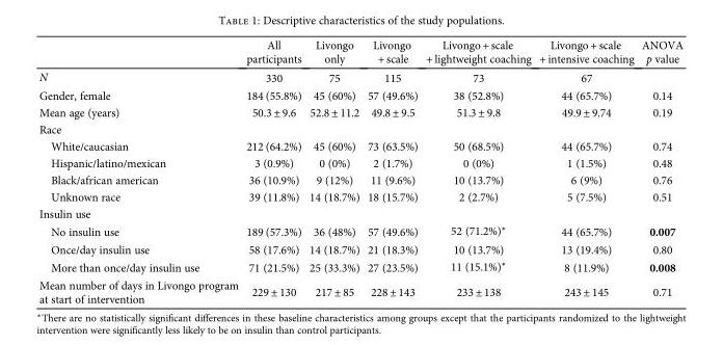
<table><thead><tr><td></td><td>All participants</td><td>Livongo only</td><td>Livongo + scale</td><td>Livongo + scale + lightweight coaching</td><td>Livongo + scale + intensive coaching</td><td>ANOVA p value</td></tr></thead><tbody><tr><td>N</td><td>330</td><td>75</td><td>115</td><td>73</td><td>67</td><td></td></tr><tr><td>Gender, female</td><td>184 (55.8%)</td><td>45 (60%)</td><td>57 (49.6%)</td><td>38 (52.8%)</td><td>44 (65.7%)</td><td>0.14</td></tr><tr><td>Mean age (years)</td><td>50.3 ± 9.6</td><td>52.8 ± 11.2</td><td>49.8 ± 9.5</td><td>51.3 ± 9.8</td><td>49.9 ± 9.74</td><td>0.19</td></tr><tr><td colspan="7">Race</td></tr><tr><td>White/caucasian</td><td>212 (64.2%)</td><td>45 (60%)</td><td>73 (63.5%)</td><td>50 (68.5%)</td><td>44 (65.7%)</td><td>0.74</td></tr><tr><td>Hispanic/latino/mexican</td><td>3 (0.9%)</td><td>0 (0%)</td><td>2 (1.7%)</td><td>0 (0%)</td><td>1 (1.5%)</td><td>0.48</td></tr><tr><td>Black/african american</td><td>36 (10.9%)</td><td>9 (12%)</td><td>11 (9.6%)</td><td>10 (13.7%)</td><td>6 (9%)</td><td>0.76</td></tr><tr><td>Unknown race</td><td>39 (11.8%)</td><td>14 (18.7%)</td><td>18 (15.7%)</td><td>2 (2.7%)</td><td>5 (7.5%)</td><td>0.51</td></tr><tr><td colspan="7">Insulin use</td></tr><tr><td>No insulin use</td><td>189 (57.3%)</td><td>36 (48%)</td><td>57 (49.6%)</td><td>52 (71.2%)∗</td><td>44 (65.7%)</td><td>0.007</td></tr><tr><td>Once/day insulin use</td><td>58 (17.6%)</td><td>14 (18.7%)</td><td>21 (18.3%)</td><td>10 (13.7%)</td><td>13 (19.4%)</td><td>0.80</td></tr><tr><td>More than once/day insulin use</td><td>71 (21.5%)</td><td>25 (33.3%)</td><td>27 (23.5%)</td><td>11 (15.1%)∗</td><td>8 (11.9%)</td><td>0.008</td></tr><tr><td>Mean number of days in Livongo program at start of intervention</td><td>229 ± 130</td><td>217 ± 85</td><td>228 ± 143</td><td>233 ± 138</td><td>243 ± 145</td><td>0.71</td></tr></tbody></table>